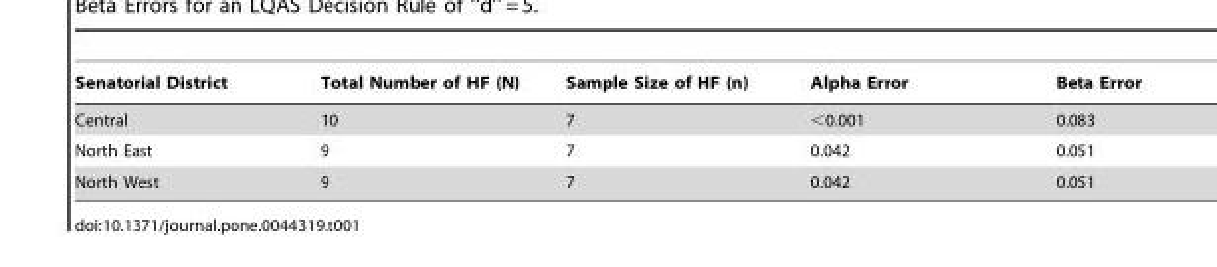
<table><thead><tr><td>Senatorial District</td><td>Total Number of HF (N)</td><td>Sample Size of HF (n)</td><td>Alpha Error</td><td>Beta Error</td></tr></thead><tbody><tr><td>Central</td><td>10</td><td>7</td><td>&lt;0.001</td><td>0.083</td></tr><tr><td>North East</td><td>9</td><td>7</td><td>0.042</td><td>0.051</td></tr><tr><td>North West</td><td>9</td><td>7</td><td>0.042</td><td>0.051</td></tr></tbody></table>